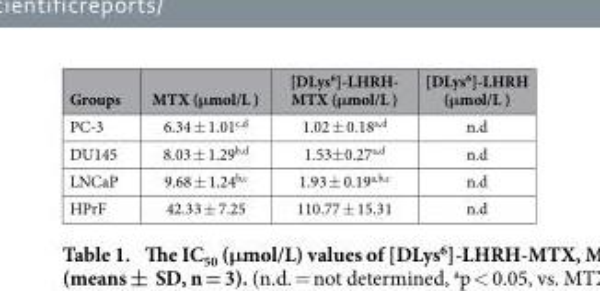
<table><thead><tr><td>Groups</td><td>MTX (μmol/L )</td><td>[DLys<sup>6</sup>]-LHRH- MTX (μmol/L )</td><td>[DLys<sup>6</sup>]-LHRH (μmol/L )</td></tr></thead><tbody><tr><td>PC-3</td><td>6.34 ± 1.01<sup>c</sup>,<sup>d</sup></td><td>1.02 ± 0.18<sup>a</sup>,<sup>d</sup></td><td>n.d</td></tr><tr><td>DU145</td><td>8.03 ± 1.29<sup>b</sup>,<sup>d</sup></td><td>1.53± 0.27<sup>a</sup>,<sup>d</sup></td><td>n.d</td></tr><tr><td>LNCaP</td><td>9.68 ± 1.24<sup>b</sup>,<sup>c</sup></td><td>1.93 ± 0.19<sup>a</sup>,<sup>b</sup>,<sup>c</sup></td><td>n.d</td></tr><tr><td>HPrF</td><td>42.33 ± 7.25</td><td>110.77 ± 15.31</td><td>n.d</td></tr></tbody></table>